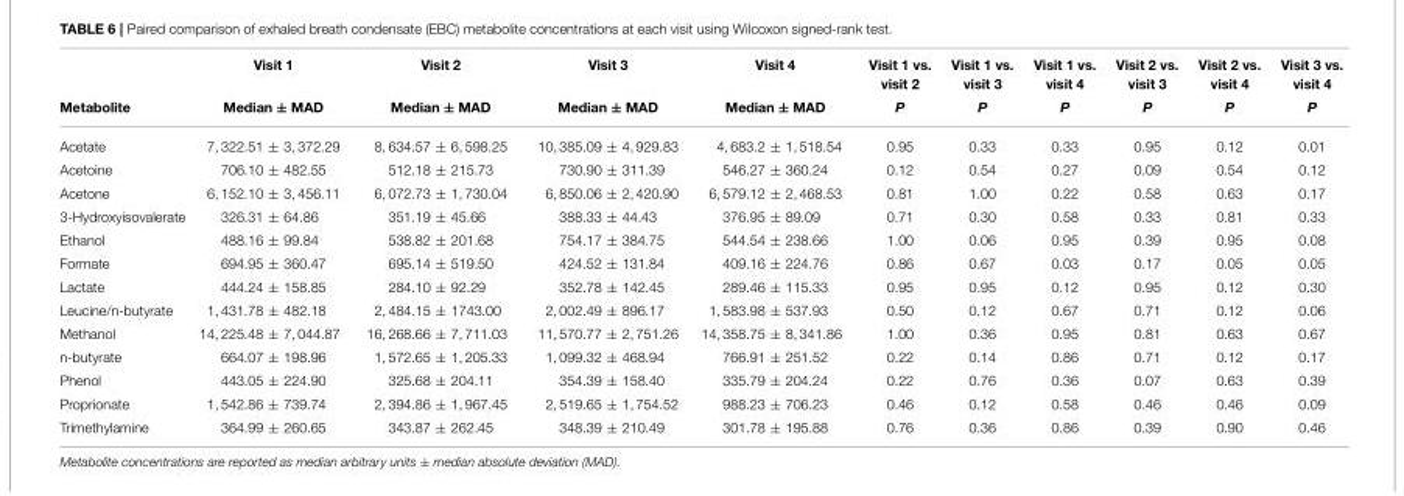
<table><thead><tr><td rowspan="2">Metabolite</td><td rowspan="2">Visit 1 Median ± MAD</td><td rowspan="2">Visit 2 Median ± MAD</td><td rowspan="2">Visit 3 Median ± MAD</td><td rowspan="2">Visit 4 Median ± MAD</td><td rowspan="2">Visit 1 vs. visit 2 P</td><td rowspan="2">Visit 1 vs. visit 3 P</td><td rowspan="2">Visit 1 vs. visit 4 P</td><td rowspan="2">Visit 2 vs. visit 3 P</td><td rowspan="2">Visit 2 vs. visit 4 P</td><td rowspan="2">Visit 3 vs. visit 4 P</td></tr><tr></tr></thead><tbody><tr><td>Acetate</td><td>7, 322.51 ± 3, 372.29</td><td>8, 634.57 ± 6, 598.25</td><td>10, 385.09 ± 4, 929.83</td><td>4, 683.2 ± 1, 518.54</td><td>0.95</td><td>0.33</td><td>0.33</td><td>0.95</td><td>0.12</td><td>0.01</td></tr><tr><td>Acetoine</td><td>706.10 ± 482.55</td><td>512.18 ± 215.73</td><td>730.90 ± 311.39</td><td>546.27 ± 360.24</td><td>0.12</td><td>0.54</td><td>0.27</td><td>0.09</td><td>0.54</td><td>0.12</td></tr><tr><td>Acetone</td><td>6, 152.10 ± 3, 456.11</td><td>6, 072.73 ± 1, 730.04</td><td>6, 850.06 ± 2, 420.90</td><td>6, 579.12 ± 2, 468.53</td><td>0.81</td><td>1.00</td><td>0.22</td><td>0.58</td><td>0.63</td><td>0.17</td></tr><tr><td>3-Hydroxyisovalerate</td><td>326.31 ± 64.86</td><td>351.19 ± 45.66</td><td>388.33 ± 44.43</td><td>376.95 ± 89.09</td><td>0.71</td><td>0.30</td><td>0.58</td><td>0.33</td><td>0.81</td><td>0.33</td></tr><tr><td>Ethanol</td><td>488.16 ± 99.84</td><td>538.82 ± 201.68</td><td>754.17 ± 384.75</td><td>544.54 ± 238.66</td><td>1.00</td><td>0.06</td><td>0.95</td><td>0.39</td><td>0.95</td><td>0.08</td></tr><tr><td>Formate</td><td>694.95 ± 360.47</td><td>695.14 ± 519.50</td><td>424.52 ± 131.84</td><td>409.16 ± 224.76</td><td>0.86</td><td>0.67</td><td>0.03</td><td>0.17</td><td>0.05</td><td>0.05</td></tr><tr><td>Lactate</td><td>444.24 ± 158.85</td><td>284.10 ± 92.29</td><td>352.78 ± 142.45</td><td>289.46 ± 115.33</td><td>0.95</td><td>0.95</td><td>0.12</td><td>0.95</td><td>0.12</td><td>0.30</td></tr><tr><td>Leucine/n-butyrate</td><td>1, 431.78 ± 482.18</td><td>2, 484.15 ± 1743.00</td><td>2, 002.49 ± 896.17</td><td>1, 583.98 ± 537.93</td><td>0.50</td><td>0.12</td><td>0.67</td><td>0.71</td><td>0.12</td><td>0.06</td></tr><tr><td>Methanol</td><td>14, 225.48 ± 7, 044.87</td><td>16, 268.66 ± 7, 711.03</td><td>11, 570.77 ± 2, 751.26</td><td>14, 358.75 ± 8, 341.86</td><td>1.00</td><td>0.36</td><td>0.95</td><td>0.81</td><td>0.63</td><td>0.67</td></tr><tr><td>n-butyrate</td><td>664.07 ± 198.96</td><td>1, 572.65 ± 1, 205.33</td><td>1, 099.32 ± 468.94</td><td>766.91 ± 251.52</td><td>0.22</td><td>0.14</td><td>0.86</td><td>0.71</td><td>0.12</td><td>0.17</td></tr><tr><td>Phenol</td><td>443.05 ± 224.90</td><td>325.68 ± 204.11</td><td>354.39 ± 158.40</td><td>335.79 ± 204.24</td><td>0.22</td><td>0.76</td><td>0.36</td><td>0.07</td><td>0.63</td><td>0.39</td></tr><tr><td>Proprionate</td><td>1, 542.86 ± 739.74</td><td>2, 394.86 ± 1, 967.45</td><td>2, 519.65 ± 1, 754.52</td><td>988.23 ± 706.23</td><td>0.46</td><td>0.12</td><td>0.58</td><td>0.46</td><td>0.46</td><td>0.09</td></tr><tr><td>Trimethylamine</td><td>364.99 ± 260.65</td><td>343.87 ± 262.45</td><td>348.39 ± 210.49</td><td>301.78 ± 195.88</td><td>0.76</td><td>0.36</td><td>0.86</td><td>0.39</td><td>0.90</td><td>0.46</td></tr></tbody></table>